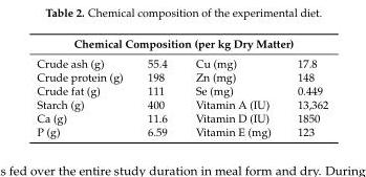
<table><thead><tr><td colspan="4">Chemical Composition (per kg Dry Matter)</td></tr><tr><td>Crude ash (g)</td><td>55.4</td><td>Cu (mg)</td><td>17.8</td></tr></thead><tbody><tr><td>Crude protein (g)</td><td>198</td><td>Zn (mg)</td><td>148</td></tr><tr><td>Crude fat (g)</td><td>111</td><td>Se (mg)</td><td>0.449</td></tr><tr><td>Starch (g)</td><td>400</td><td>Vitamin A (IU)</td><td>13,362</td></tr><tr><td>Ca (g)</td><td>11.6</td><td>Vitamin D (IU)</td><td>1850</td></tr><tr><td>P (g)</td><td>6.59</td><td>Vitamin E (mg)</td><td>123</td></tr></tbody></table>